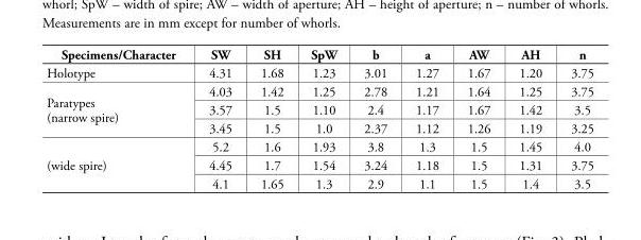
<table><thead><tr><td>Specimens/Character</td><td>SW</td><td>SH</td><td>SpW</td><td>b</td><td>a</td><td>AW</td><td>AH</td><td>n</td></tr></thead><tbody><tr><td>Holotype</td><td>4.31</td><td>1.68</td><td>1.23</td><td>3.01</td><td>1.27</td><td>1.67</td><td>1.20</td><td>3.75</td></tr><tr><td rowspan="3">Paratypes (narrow spire)</td><td>4.03</td><td>1.42</td><td>1.25</td><td>2.78</td><td>1.21</td><td>1.64</td><td>1.25</td><td>3.75</td></tr><tr><td>3.57</td><td>1.5</td><td>1.10</td><td>2.4</td><td>1.17</td><td>1.67</td><td>1.42</td><td>3.5</td></tr><tr><td>3.45</td><td>1.5</td><td>1.0</td><td>2.37</td><td>1.12</td><td>1.26</td><td>1.19</td><td>3.25</td></tr><tr><td rowspan="3">(wide spire)</td><td>5.2</td><td>1.6</td><td>1.93</td><td>3.8</td><td>1.3</td><td>1.5</td><td>1.45</td><td>4.0</td></tr><tr><td>4.45</td><td>1.7</td><td>1.54</td><td>3.24</td><td>1.18</td><td>1.5</td><td>1.31</td><td>3.75</td></tr><tr><td>4.1</td><td>1.65</td><td>1.3</td><td>2.9</td><td>1.1</td><td>1.5</td><td>1.4</td><td>3.5</td></tr></tbody></table>